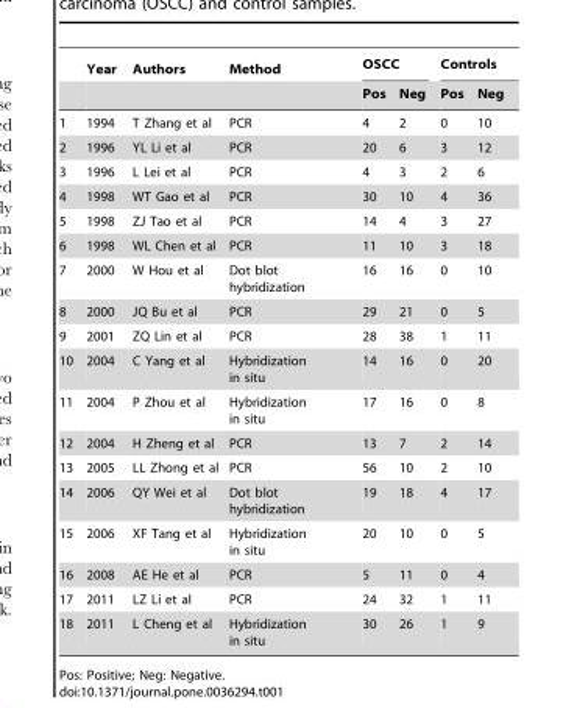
<table><thead><tr><td rowspan="2"></td><td rowspan="2">Year</td><td rowspan="2">Authors</td><td rowspan="2">Method</td><td colspan="2">OSCC</td><td colspan="2">Controls</td></tr><tr><td>Pos</td><td>Neg</td><td>Pos</td><td>Neg</td></tr></thead><tbody><tr><td>1</td><td>1994</td><td>T Zhang et al</td><td>PCR</td><td>4</td><td>2</td><td>0</td><td>10</td></tr><tr><td>2</td><td>1996</td><td>YL Li et al</td><td>PCR</td><td>20</td><td>6</td><td>3</td><td>12</td></tr><tr><td>3</td><td>1996</td><td>L Lei et al</td><td>PCR</td><td>4</td><td>3</td><td>2</td><td>6</td></tr><tr><td>4</td><td>1998</td><td>WT Gao et al</td><td>PCR</td><td>30</td><td>10</td><td>4</td><td>36</td></tr><tr><td>5</td><td>1998</td><td>ZJ Tao et al</td><td>PCR</td><td>14</td><td>4</td><td>3</td><td>27</td></tr><tr><td>6</td><td>1998</td><td>WL Chen et al</td><td>PCR</td><td>11</td><td>10</td><td>3</td><td>18</td></tr><tr><td>7</td><td>2000</td><td>W Hou et al</td><td>Dot blot hybridization</td><td>16</td><td>16</td><td>0</td><td>10</td></tr><tr><td>8</td><td>2000</td><td>JQ Bu et al</td><td>PCR</td><td>29</td><td>21</td><td>0</td><td>5</td></tr><tr><td>9</td><td>2001</td><td>ZQ Lin et al</td><td>PCR</td><td>28</td><td>38</td><td>1</td><td>11</td></tr><tr><td>10</td><td>2004</td><td>C Yang et al</td><td>Hybridization in situ</td><td>14</td><td>16</td><td>0</td><td>20</td></tr><tr><td>11</td><td>2004</td><td>P Zhou et al</td><td>Hybridization in situ</td><td>17</td><td>16</td><td>0</td><td>8</td></tr><tr><td>12</td><td>2004</td><td>H Zheng et al</td><td>PCR</td><td>13</td><td>7</td><td>2</td><td>14</td></tr><tr><td>13</td><td>2005</td><td>LL Zhong et al</td><td>PCR</td><td>56</td><td>10</td><td>2</td><td>10</td></tr><tr><td>14</td><td>2006</td><td>QY Wei et al</td><td>Dot blot hybridization</td><td>19</td><td>18</td><td>4</td><td>17</td></tr><tr><td>15</td><td>2006</td><td>XF Tang et al</td><td>Hybridization in situ</td><td>20</td><td>10</td><td>0</td><td>5</td></tr><tr><td>16</td><td>2008</td><td>AE He et al</td><td>PCR</td><td>5</td><td>11</td><td>0</td><td>4</td></tr><tr><td>17</td><td>2011</td><td>LZ Li et al</td><td>PCR</td><td>24</td><td>32</td><td>1</td><td>11</td></tr><tr><td>18</td><td>2011</td><td>L Cheng et al</td><td>Hybridization in situ</td><td>30</td><td>26</td><td>1</td><td>9</td></tr></tbody></table>